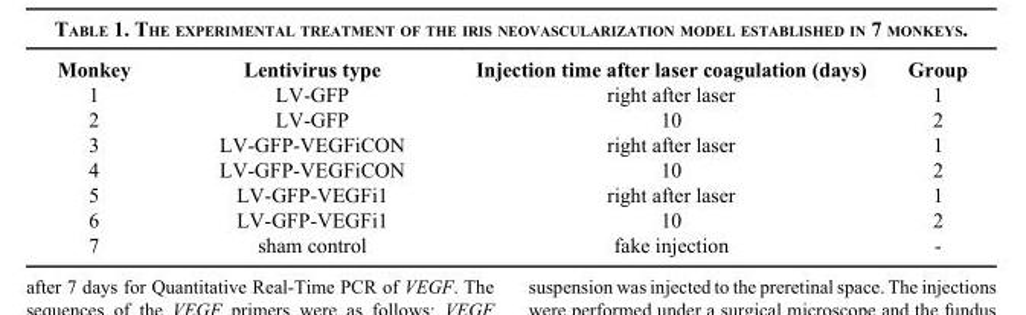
<table><thead><tr><td>Monkey</td><td>Lentivirus type</td><td>Injection time after laser coagulation (days)</td><td>Group</td></tr></thead><tbody><tr><td>1</td><td>LV-GFP</td><td>right after laser</td><td>1</td></tr><tr><td>2</td><td>LV-GFP</td><td>10</td><td>2</td></tr><tr><td>3</td><td>LV-GFP-VEGFiCON</td><td>right after laser</td><td>1</td></tr><tr><td>4</td><td>LV-GFP-VEGFiCON</td><td>10</td><td>2</td></tr><tr><td>5</td><td>LV-GFP-VEGFi1</td><td>right after laser</td><td>1</td></tr><tr><td>6</td><td>LV-GFP-VEGFi1</td><td>10</td><td>2</td></tr><tr><td>7</td><td>sham control</td><td>fake injection</td><td>-</td></tr></tbody></table>